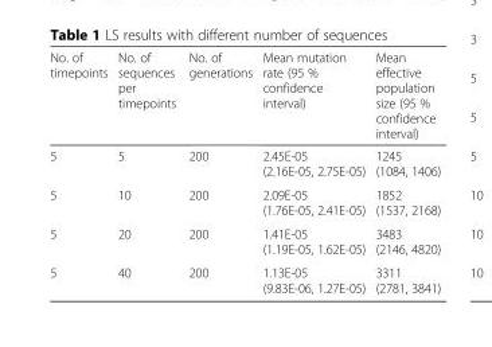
<table><thead><tr><td>No. of timepoints</td><td>No. of sequences per timepoints</td><td>No. of generations</td><td>Mean mutation rate (95 % confidence interval)</td><td>Mean effective population size (95 % confidence interval)</td></tr></thead><tbody><tr><td>5</td><td>5</td><td>200</td><td>2.45E-05 (2.16E-05, 2.75E-05)</td><td>1245 (1084, 1406)</td></tr><tr><td>5</td><td>10</td><td>200</td><td>2.09E-05 (1.76E-05, 2.41E-05)</td><td>1852 (1537, 2168)</td></tr><tr><td>5</td><td>20</td><td>200</td><td>1.41E-05 (1.19E-05, 1.62E-05)</td><td>3483 (2146, 4820)</td></tr><tr><td>5</td><td>40</td><td>200</td><td>1.13E-05 (9.83E-06, 1.27E-05)</td><td>3311 (2781, 3841)</td></tr></tbody></table>